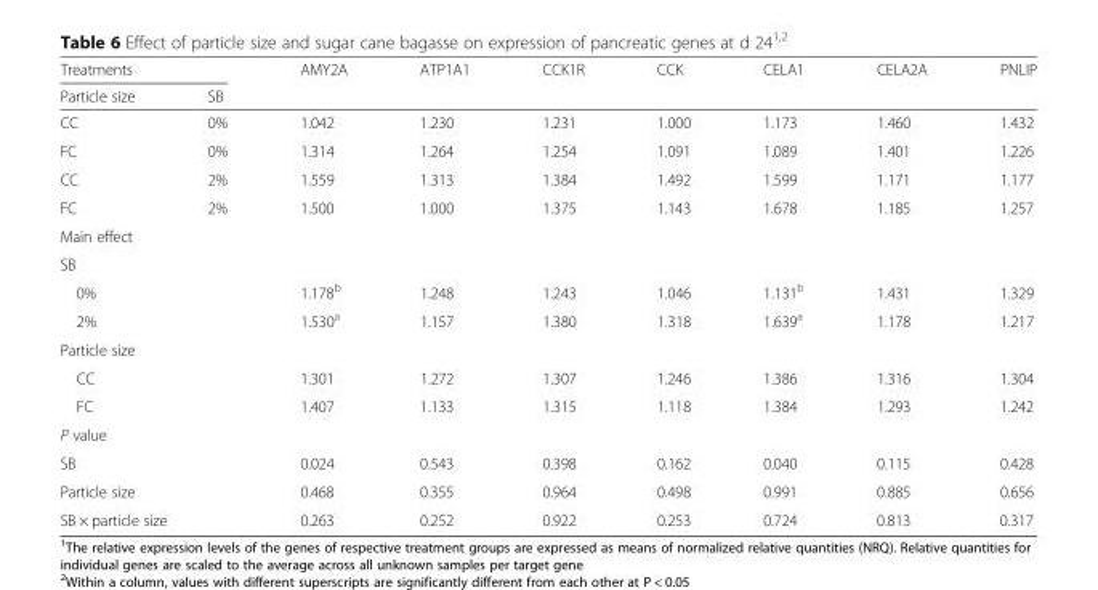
<table><thead><tr><td colspan="2">Treatments</td><td rowspan="2">AMY2A</td><td rowspan="2">ATP1A1</td><td rowspan="2">CCK1R</td><td rowspan="2">CCK</td><td rowspan="2">CELA1</td><td rowspan="2">CELA2A</td><td rowspan="2">PNLIP</td></tr><tr><td>Particle size</td><td>SB</td></tr></thead><tbody><tr><td>CC</td><td>0%</td><td>1.042</td><td>1.230</td><td>1.231</td><td>1.000</td><td>1.173</td><td>1.460</td><td>1.432</td></tr><tr><td>FC</td><td>0%</td><td>1.314</td><td>1.264</td><td>1.254</td><td>1.091</td><td>1.089</td><td>1.401</td><td>1.226</td></tr><tr><td>CC</td><td>2%</td><td>1.559</td><td>1.313</td><td>1.384</td><td>1.492</td><td>1.599</td><td>1.171</td><td>1.177</td></tr><tr><td>FC</td><td>2%</td><td>1.500</td><td>1.000</td><td>1.375</td><td>1.143</td><td>1.678</td><td>1.185</td><td>1.257</td></tr><tr><td colspan="9">Main effect</td></tr><tr><td colspan="9">SB</td></tr><tr><td colspan="2">0%</td><td>1.178<sup>b</sup></td><td>1.248</td><td>1.243</td><td>1.046</td><td>1.131<sup>b</sup></td><td>1.431</td><td>1.329</td></tr><tr><td colspan="2">2%</td><td>1.530<sup>a</sup></td><td>1.157</td><td>1.380</td><td>1.318</td><td>1.639<sup>a</sup></td><td>1.178</td><td>1.217</td></tr><tr><td colspan="9">Particle size</td></tr><tr><td colspan="2">CC</td><td>1.301</td><td>1.272</td><td>1.307</td><td>1.246</td><td>1.386</td><td>1.316</td><td>1.304</td></tr><tr><td colspan="2">FC</td><td>1.407</td><td>1.133</td><td>1.315</td><td>1.118</td><td>1.384</td><td>1.293</td><td>1.242</td></tr><tr><td colspan="9">P value</td></tr><tr><td colspan="2">SB</td><td>0.024</td><td>0.543</td><td>0.398</td><td>0.162</td><td>0.040</td><td>0.115</td><td>0.428</td></tr><tr><td colspan="2">Particle size</td><td>0.468</td><td>0.355</td><td>0.964</td><td>0.498</td><td>0.991</td><td>0.885</td><td>0.656</td></tr><tr><td colspan="2">SB × particle size</td><td>0.263</td><td>0.252</td><td>0.922</td><td>0.253</td><td>0.724</td><td>0.813</td><td>0.317</td></tr></tbody></table>